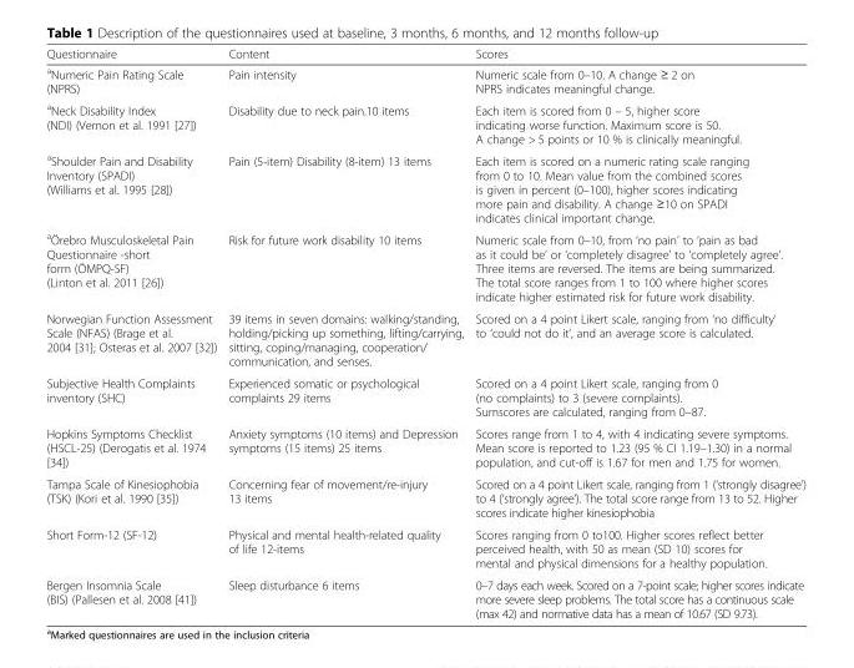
<table><thead><tr><td>Questionnaire</td><td>Content</td><td>Scores</td></tr></thead><tbody><tr><td><sup>a</sup>Numeric Pain Rating Scale (NPRS)</td><td>Pain intensity</td><td>Numeric scale from 0–10. A change ≥ 2 on NPRS indicates meaningful change.</td></tr><tr><td><sup>a</sup>Neck Disability Index (NDI) (Vernon et al. 1991 [27])</td><td>Disability due to neck pain.10 items</td><td>Each item is scored from 0 – 5, higher score indicating worse function. Maximum score is 50. A change &gt; 5 points or 10 % is clinically meaningful.</td></tr><tr><td><sup>a</sup>Shoulder Pain and Disability Inventory (SPADI) (Williams et al. 1995 [28])</td><td>Pain (5-item) Disability (8-item) 13 items</td><td>Each item is scored on a numeric rating scale ranging from 0 to 10. Mean value from the combined scores is given in percent (0–100), higher scores indicating more pain and disability. A change ≥10 on SPADI indicates clinical important change.</td></tr><tr><td><sup>a</sup>Örebro Musculoskeletal Pain Questionnaire -short form (ÖMPQ-SF) (Linton et al. 2011 [26])</td><td>Risk for future work disability 10 items</td><td>Numeric scale from 0–10, from ‘no pain’ to ‘pain as bad as it could be’ or ‘completely disagree’ to ‘completely agree’. Three items are reversed. The items are being summarized. The total score ranges from 1 to 100 where higher scores indicate higher estimated risk for future work disability.</td></tr><tr><td>Norwegian Function Assessment Scale (NFAS) (Brage et al. 2004 [31]; Osteras et al. 2007 [32])</td><td>39 items in seven domains: walking/standing, holding/picking up something, lifting/carrying, sitting, coping/managing, cooperation/ communication, and senses.</td><td>Scored on a 4 point Likert scale, ranging from ‘no difficulty’ to ‘could not do it’, and an average score is calculated.</td></tr><tr><td>Subjective Health Complaints inventory (SHC)</td><td>Experienced somatic or psychological complaints 29 items</td><td>Scored on a 4 point Likert scale, ranging from 0 (no complaints) to 3 (severe complaints). Sumscores are calculated, ranging from 0–87.</td></tr><tr><td>Hopkins Symptoms Checklist (HSCL-25) (Derogatis et al. 1974 [34])</td><td>Anxiety symptoms (10 items) and Depression symptoms (15 items) 25 items</td><td>Scores range from 1 to 4, with 4 indicating severe symptoms. Mean score is reported to 1.23 (95 % CI 1.19–1.30) in a normal population, and cut-off is 1.67 for men and 1.75 for women.</td></tr><tr><td>Tampa Scale of Kinesiophobia (TSK) (Kori et al. 1990 [35])</td><td>Concerning fear of movement/re-injury 13 items</td><td>Scored on a 4 point Likert scale, ranging from 1 (‘strongly disagree’) to 4 (‘strongly agree’). The total score range from 13 to 52. Higher scores indicate higher kinesiophobia</td></tr><tr><td>Short Form-12 (SF-12)</td><td>Physical and mental health-related quality of life 12-items</td><td>Scores ranging from 0 to100. Higher scores reflect better perceived health, with 50 as mean (SD 10) scores for mental and physical dimensions for a healthy population.</td></tr><tr><td>Bergen Insomnia Scale (BIS) (Pallesen et al. 2008 [41])</td><td>Sleep disturbance 6 items</td><td>0–7 days each week. Scored on a 7-point scale; higher scores indicate more severe sleep problems. The total score has a continuous scale (max 42) and normative data has a mean of 10.67 (SD 9.73).</td></tr></tbody></table>